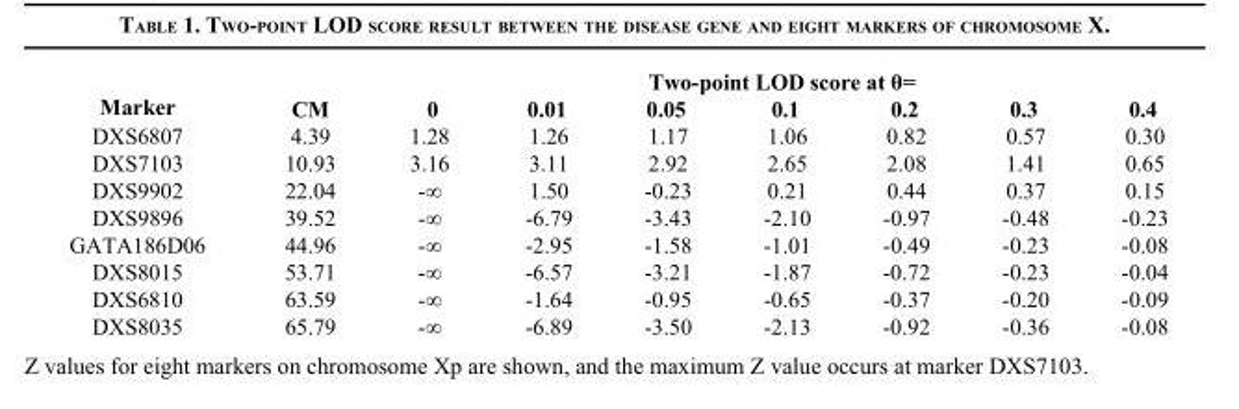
<table><tbody><tr><td rowspan="2">Marker</td><td rowspan="2">CM</td><td colspan="7">Two-point LOD score at θ=</td></tr><tr><td>0</td><td>0.01</td><td>0.05</td><td>0.1</td><td>0.2</td><td>0.3</td><td>0.4</td></tr><tr><td>DXS6807</td><td>4.39</td><td>1.28</td><td>1.26</td><td>1.17</td><td>1.06</td><td>0.82</td><td>0.57</td><td>0.30</td></tr><tr><td>DXS7103</td><td>10.93</td><td>3.16</td><td>3.11</td><td>2.92</td><td>2.65</td><td>2.08</td><td>1.41</td><td>0.65</td></tr><tr><td>DXS9902</td><td>22.04</td><td>-∞</td><td>1.50</td><td>-0.23</td><td>0.21</td><td>0.44</td><td>0.37</td><td>0.15</td></tr><tr><td>DXS9896</td><td>39.52</td><td>-∞</td><td>-6.79</td><td>-3.43</td><td>-2.10</td><td>-0.97</td><td>-0.48</td><td>-0.23</td></tr><tr><td>GATA186D06</td><td>44.96</td><td>-∞</td><td>-2.95</td><td>-1.58</td><td>-1.01</td><td>-0.49</td><td>-0.23</td><td>-0.08</td></tr><tr><td>DXS8015</td><td>53.71</td><td>-∞</td><td>-6.57</td><td>-3.21</td><td>-1.87</td><td>-0.72</td><td>-0.23</td><td>-0.04</td></tr><tr><td>DXS6810</td><td>63.59</td><td>-∞</td><td>-1.64</td><td>-0.95</td><td>-0.65</td><td>-0.37</td><td>-0.20</td><td>-0.09</td></tr><tr><td>DXS8035</td><td>65.79</td><td>-∞</td><td>-6.89</td><td>-3.50</td><td>-2.13</td><td>-0.92</td><td>-0.36</td><td>-0.08</td></tr></tbody></table>